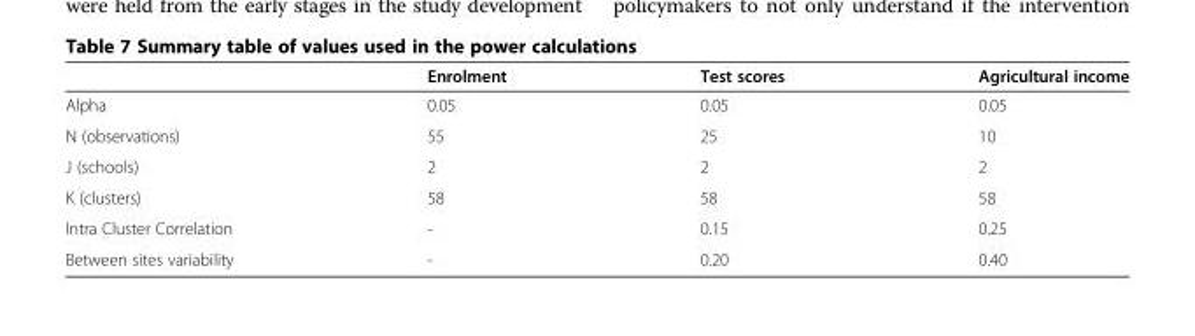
<table><thead><tr><td></td><td>Enrolment</td><td>Test scores</td><td>Agricultural income</td></tr></thead><tbody><tr><td>Alpha</td><td>0.05</td><td>0.05</td><td>0.05</td></tr><tr><td>N (observations)</td><td>55</td><td>25</td><td>10</td></tr><tr><td>J (schools)</td><td>2</td><td>2</td><td>2</td></tr><tr><td>K (clusters)</td><td>58</td><td>58</td><td>58</td></tr><tr><td>Intra Cluster Correlation</td><td>-</td><td>0.15</td><td>0.25</td></tr><tr><td>Between sites variability</td><td>-</td><td>0.20</td><td>0.40</td></tr></tbody></table>